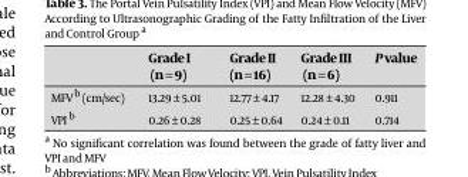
<table><thead><tr><td></td><td>Grade I (n = 9)</td><td>Grade II (n = 16)</td><td>Grade III (n = 6)</td><td>P value</td></tr></thead><tbody><tr><td>MFV b (cm/sec)</td><td>13.29 ± 5.01</td><td>12.77 ± 4.17</td><td>12.28 ± 4.30</td><td>0.911</td></tr><tr><td>VPI b</td><td>0.26 ± 0.28</td><td>0.25 ± 0.64</td><td>0.24 ± 0.11</td><td>0.714</td></tr></tbody></table>